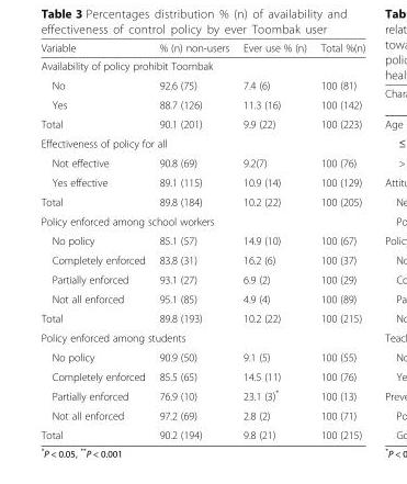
<table><thead><tr><td>Variable</td><td>% (n) non-users</td><td>Ever use % (n)</td><td>Total %(n)</td></tr></thead><tbody><tr><td colspan="4">Availability of policy prohibit Toombak</td></tr><tr><td>No</td><td>92.6 (75)</td><td>7.4 (6)</td><td>100 (81)</td></tr><tr><td>Yes</td><td>88.7 (126)</td><td>11.3 (16)</td><td>100 (142)</td></tr><tr><td>Total</td><td>90.1 (201)</td><td>9.9 (22)</td><td>100 (223)</td></tr><tr><td colspan="4">Effectiveness of policy for all</td></tr><tr><td>Not effective</td><td>90.8 (69)</td><td>9.2(7)</td><td>100 (76)</td></tr><tr><td>Yes effective</td><td>89.1 (115)</td><td>10.9 (14)</td><td>100 (129)</td></tr><tr><td>Total</td><td>89.8 (184)</td><td>10.2 (22)</td><td>100 (205)</td></tr><tr><td colspan="4">Policy enforced among school workers</td></tr><tr><td>No policy</td><td>85.1 (57)</td><td>14.9 (10)</td><td>100 (67)</td></tr><tr><td>Completely enforced</td><td>83.8 (31)</td><td>16.2 (6)</td><td>100 (37)</td></tr><tr><td>Partially enforced</td><td>93.1 (27)</td><td>6.9 (2)</td><td>100 (29)</td></tr><tr><td>Not all enforced</td><td>95.1 (85)</td><td>4.9 (4)</td><td>100 (89)</td></tr><tr><td>Total</td><td>89.8 (193)</td><td>10.2 (22)</td><td>100 (215)</td></tr><tr><td colspan="4">Policy enforced among students</td></tr><tr><td>No policy</td><td>90.9 (50)</td><td>9.1 (5)</td><td>100 (55)</td></tr><tr><td>Completely enforced</td><td>85.5 (65)</td><td>14.5 (11)</td><td>100 (76)</td></tr><tr><td>Partially enforced</td><td>76.9 (10)</td><td>23.1 (3)*</td><td>100 (13)</td></tr><tr><td>Not all enforced</td><td>97.2 (69)</td><td>2.8 (2)</td><td>100 (71)</td></tr><tr><td>Total</td><td>90.2 (194)</td><td>9.8 (21)</td><td>100 (215)</td></tr></tbody></table>